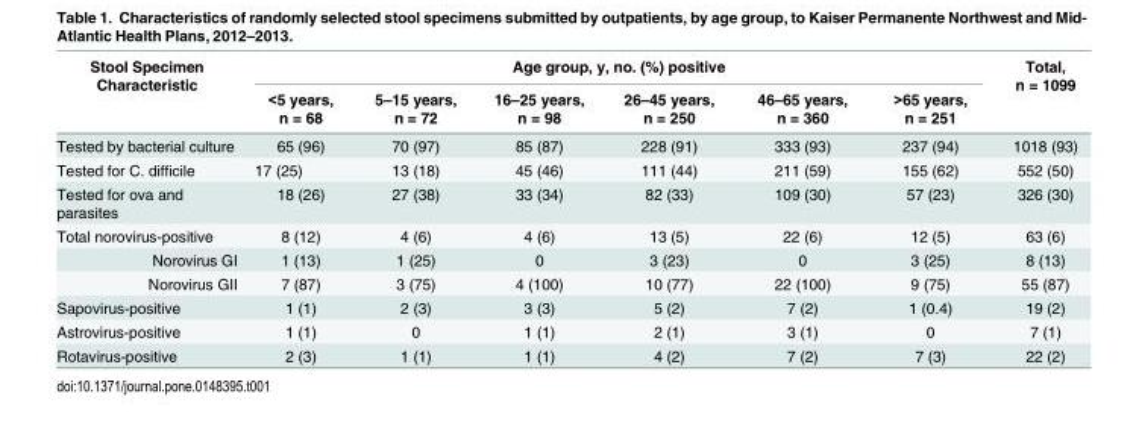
<table><thead><tr><td rowspan="2">Stool Specimen Characteristic</td><td colspan="6">Age group, y, no. (%) positive</td><td rowspan="2">Total, n = 1099</td></tr><tr><td>&lt;5 years, n = 68</td><td>5–15 years, n = 72</td><td>16–25 years, n = 98</td><td>26–45 years, n = 250</td><td>46–65 years, n = 360</td><td>&gt;65 years, n = 251</td></tr></thead><tbody><tr><td>Tested by bacterial culture</td><td>65 (96)</td><td>70 (97)</td><td>85 (87)</td><td>228 (91)</td><td>333 (93)</td><td>237 (94)</td><td>1018 (93)</td></tr><tr><td>Tested for C. difficile</td><td>17 (25)</td><td>13 (18)</td><td>45 (46)</td><td>111 (44)</td><td>211 (59)</td><td>155 (62)</td><td>552 (50)</td></tr><tr><td>Tested for ova and parasites</td><td>18 (26)</td><td>27 (38)</td><td>33 (34)</td><td>82 (33)</td><td>109 (30)</td><td>57 (23)</td><td>326 (30)</td></tr><tr><td>Total norovirus-positive</td><td>8 (12)</td><td>4 (6)</td><td>4 (6)</td><td>13 (5)</td><td>22 (6)</td><td>12 (5)</td><td>63 (6)</td></tr><tr><td>Norovirus GI</td><td>1 (13)</td><td>1 (25)</td><td>0</td><td>3 (23)</td><td>0</td><td>3 (25)</td><td>8 (13)</td></tr><tr><td>Norovirus GII</td><td>7 (87)</td><td>3 (75)</td><td>4 (100)</td><td>10 (77)</td><td>22 (100)</td><td>9 (75)</td><td>55 (87)</td></tr><tr><td>Sapovirus-positive</td><td>1 (1)</td><td>2 (3)</td><td>3 (3)</td><td>5 (2)</td><td>7 (2)</td><td>1 (0.4)</td><td>19 (2)</td></tr><tr><td>Astrovirus-positive</td><td>1 (1)</td><td>0</td><td>1 (1)</td><td>2 (1)</td><td>3 (1)</td><td>0</td><td>7 (1)</td></tr><tr><td>Rotavirus-positive</td><td>2 (3)</td><td>1 (1)</td><td>1 (1)</td><td>4 (2)</td><td>7 (2)</td><td>7 (3)</td><td>22 (2)</td></tr></tbody></table>